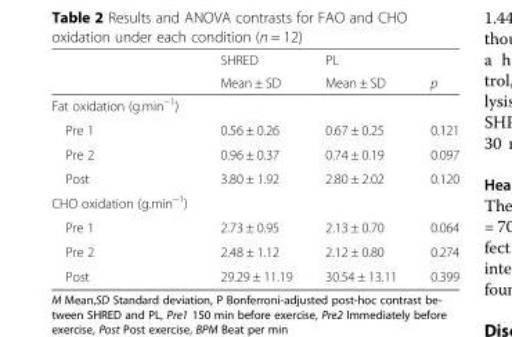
<table><thead><tr><td rowspan="2"></td><td rowspan="2">SHRED Mean ± SD</td><td rowspan="2">PL Mean ± SD</td><td rowspan="2">p</td></tr><tr></tr></thead><tbody><tr><td colspan="4">Fat oxidation (g.min<sup>−1</sup>)</td></tr><tr><td>Pre 1</td><td>0.56 ± 0.26</td><td>0.67 ± 0.25</td><td>0.121</td></tr><tr><td>Pre 2</td><td>0.96 ± 0.37</td><td>0.74 ± 0.19</td><td>0.097</td></tr><tr><td>Post</td><td>3.80 ± 1.92</td><td>2.80 ± 2.02</td><td>0.120</td></tr><tr><td colspan="4">CHO oxidation (g.min<sup>−1</sup>)</td></tr><tr><td>Pre 1</td><td>2.73 ± 0.95</td><td>2.13 ± 0.70</td><td>0.064</td></tr><tr><td>Pre 2</td><td>2.48 ± 1.12</td><td>2.12 ± 0.80</td><td>0.274</td></tr><tr><td>Post</td><td>29.29 ± 11.19</td><td>30.54 ± 13.11</td><td>0.399</td></tr></tbody></table>